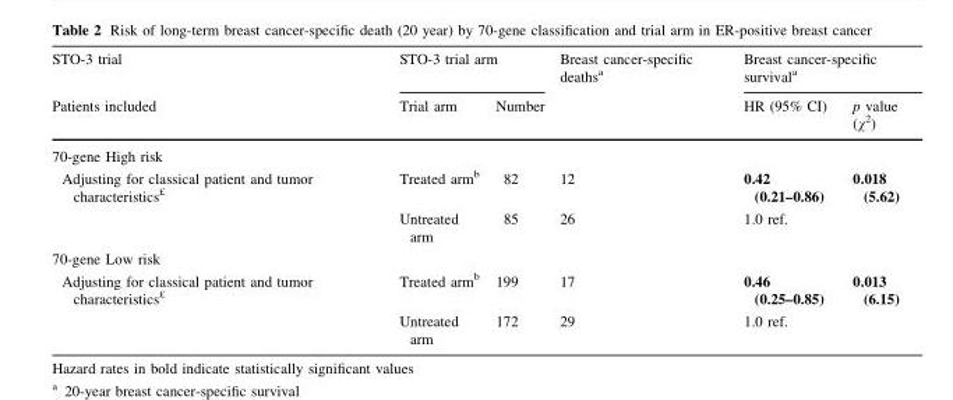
<table><thead><tr><td rowspan="2">STO-3 trial Patients included</td><td colspan="2">STO-3 trial arm</td><td rowspan="2">Breast cancer-specific deaths<sup>a</sup></td><td colspan="2">Breast cancer-specific survival<sup>a</sup></td></tr><tr><td>Trial arm</td><td>Number</td><td>HR (95% CI)</td><td>p value (χ<sup>2</sup>)</td></tr></thead><tbody><tr><td colspan="6">70-gene High risk</td></tr><tr><td rowspan="2">Adjusting for classical patient and tumor characteristics<sup>£</sup></td><td>Treated arm<sup>b</sup></td><td>82</td><td>12</td><td>0.42 (0.21–0.86)</td><td>0.018 (5.62)</td></tr><tr><td>Untreated arm</td><td>85</td><td>26</td><td>1.0 ref.</td><td></td></tr><tr><td colspan="6">70-gene Low risk</td></tr><tr><td rowspan="2">Adjusting for classical patient and tumor characteristics<sup>£</sup></td><td>Treated arm<sup>b</sup></td><td>199</td><td>17</td><td>0.46 (0.25–0.85)</td><td>0.013 (6.15)</td></tr><tr><td>Untreated arm</td><td>172</td><td>29</td><td>1.0 ref.</td><td></td></tr></tbody></table>